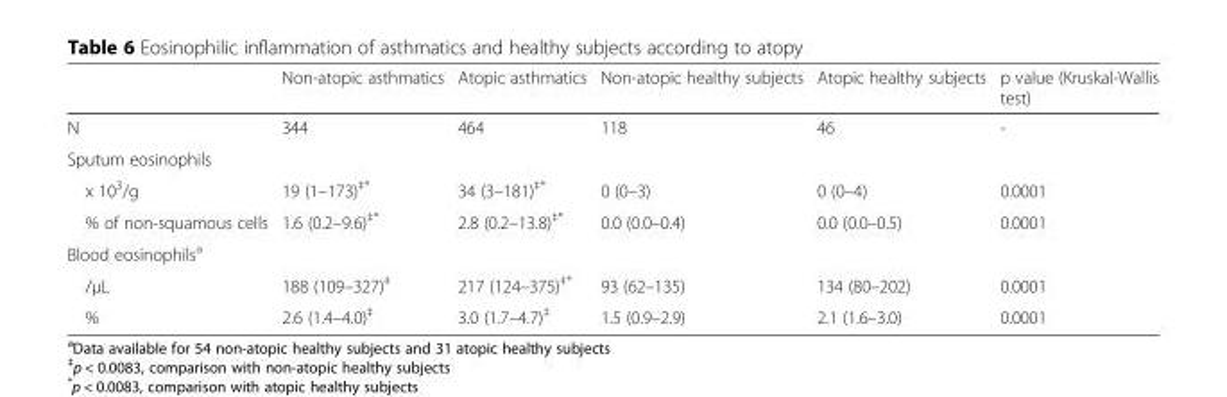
<table><thead><tr><td></td><td>Non-atopic asthmatics</td><td>Atopic asthmatics</td><td>Non-atopic healthy subjects</td><td>Atopic healthy subjects</td><td>p value (Kruskal-Wallis test)</td></tr></thead><tbody><tr><td>N</td><td>344</td><td>464</td><td>118</td><td>46</td><td>-</td></tr><tr><td colspan="6">Sputum eosinophils</td></tr><tr><td>x 10<sup>3</sup>/g</td><td>19 (1–173)<sup>‡*</sup></td><td>34 (3–181)<sup>‡*</sup></td><td>0 (0–3)</td><td>0 (0–4)</td><td>0.0001</td></tr><tr><td>% of non-squamous cells</td><td>1.6 (0.2–9.6)<sup>‡*</sup></td><td>2.8 (0.2–13.8)<sup>‡*</sup></td><td>0.0 (0.0–0.4)</td><td>0.0 (0.0–0.5)</td><td>0.0001</td></tr><tr><td colspan="6">Blood eosinophils<sup>a</sup></td></tr><tr><td>/μL</td><td>188 (109–327)<sup>‡</sup></td><td>217 (124–375)<sup>‡*</sup></td><td>93 (62–135)</td><td>134 (80–202)</td><td>0.0001</td></tr><tr><td>%</td><td>2.6 (1.4–4.0)<sup>‡</sup></td><td>3.0 (1.7–4.7)<sup>‡</sup></td><td>1.5 (0.9–2.9)</td><td>2.1 (1.6–3.0)</td><td>0.0001</td></tr></tbody></table>